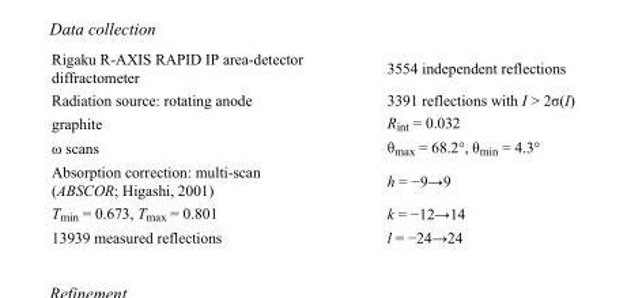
<table><tbody><tr><td>Rigaku R-AXIS RAPID IP area-detector diffractometer</td><td>3554 independent reflections</td></tr><tr><td>Radiation source: rotating anode</td><td>3391 reflections with I &gt; 2σ(I)</td></tr><tr><td>graphite</td><td>R<sub>int</sub> = 0.032</td></tr><tr><td>ω scans</td><td>θ<sub>max</sub> = 68.2°, θ<sub>min</sub> = 4.3°</td></tr><tr><td>Absorption correction: multi-scan (ABSCOR; Higashi, 2001)</td><td>h = −9→9</td></tr><tr><td>T<sub>min</sub> = 0.673, T<sub>max</sub> = 0.801</td><td>k = −12→14</td></tr><tr><td>13939 measured reflections</td><td>l = −24→24</td></tr></tbody></table>